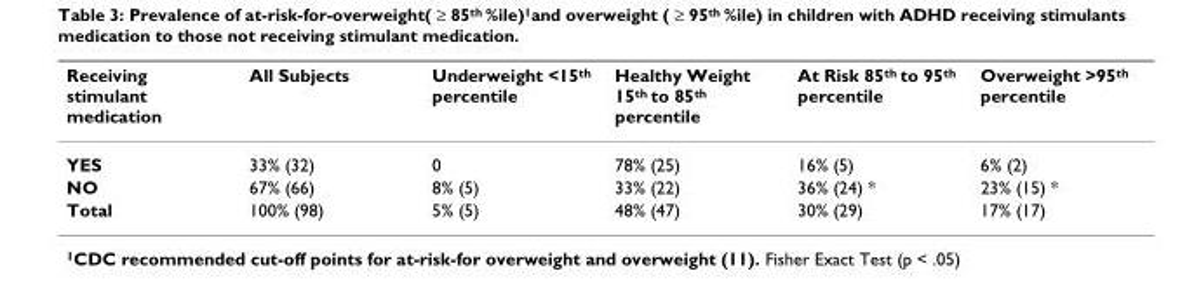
<table><thead><tr><td>Receiving stimulant medication</td><td>All Subjects</td><td>Underweight &lt;15<sup>th</sup> percentile</td><td>Healthy Weight 15<sup>th</sup> to 85<sup>th</sup> percentile</td><td>At Risk 85<sup>th</sup> to 95<sup>th</sup> percentile</td><td>Overweight &gt;95<sup>th</sup> percentile</td></tr></thead><tbody><tr><td>YES</td><td>33% (32)</td><td>0</td><td>78% (25)</td><td>16% (5)</td><td>6% (2)</td></tr><tr><td>NO</td><td>67% (66)</td><td>8% (5)</td><td>33% (22)</td><td>36% (24) *</td><td>23% (15) *</td></tr><tr><td>Total</td><td>100% (98)</td><td>5% (5)</td><td>48% (47)</td><td>30% (29)</td><td>17% (17)</td></tr></tbody></table>